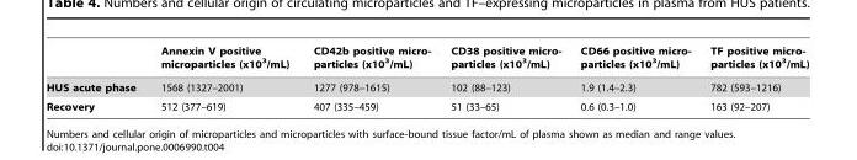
<table><thead><tr><td></td><td>Annexin V positive microparticles (x10<sup>3</sup>/mL)</td><td>CD42b positive micro- particles (x103/mL)</td><td>CD38 positive micro- particles (x103/mL)</td><td>CD66 positive micro- particles (x103/mL)</td><td>TF positive micro- particles (x103/mL)</td></tr></thead><tbody><tr><td>HUS acute phase</td><td>1568 (1327–2001)</td><td>1277 (978–1615)</td><td>102 (88–123)</td><td>1.9 (1.4–2.3)</td><td>782 (593–1216)</td></tr><tr><td>Recovery</td><td>512 (377–619)</td><td>407 (335–459)</td><td>51 (33–65)</td><td>0.6 (0.3–1.0)</td><td>163 (92–207)</td></tr></tbody></table>